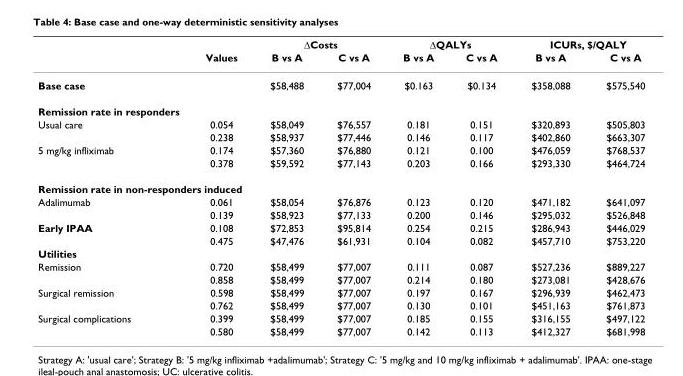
<table><thead><tr><td rowspan="2"></td><td rowspan="2">Values</td><td colspan="2">ΔCosts</td><td colspan="2">ΔQALYs</td><td colspan="2">ICURs, $/QALY</td></tr><tr><td>B vs A</td><td>C vs A</td><td>B vs A</td><td>C vs A</td><td>B vs A</td><td>C vs A</td></tr></thead><tbody><tr><td>Base case</td><td></td><td>$58,488</td><td>$77,004</td><td>$0.163</td><td>$0.134</td><td>$358,088</td><td>$575,540</td></tr><tr><td colspan="8">Remission rate in responders</td></tr><tr><td rowspan="2">Usual care</td><td>0.054</td><td>$58,049</td><td>$76,557</td><td>0.181</td><td>0.151</td><td>$320,893</td><td>$505,803</td></tr><tr><td>0.238</td><td>$58,937</td><td>$77,446</td><td>0.146</td><td>0.117</td><td>$402,860</td><td>$663,307</td></tr><tr><td rowspan="2">5 mg/kg infliximab</td><td>0.174</td><td>$57,360</td><td>$76,880</td><td>0.121</td><td>0.100</td><td>$476,059</td><td>$768,537</td></tr><tr><td>0.378</td><td>$59,592</td><td>$77,143</td><td>0.203</td><td>0.166</td><td>$293,330</td><td>$464,724</td></tr><tr><td colspan="8">Remission rate in non-responders induced</td></tr><tr><td rowspan="2">Adalimumab</td><td>0.061</td><td>$58,054</td><td>$76,876</td><td>0.123</td><td>0.120</td><td>$471,182</td><td>$641,097</td></tr><tr><td>0.139</td><td>$58,923</td><td>$77,133</td><td>0.200</td><td>0.146</td><td>$295,032</td><td>$526,848</td></tr><tr><td rowspan="2">Early IPAA</td><td>0.108</td><td>$72,853</td><td>$95,814</td><td>0.254</td><td>0.215</td><td>$286,943</td><td>$446,029</td></tr><tr><td>0.475</td><td>$47,476</td><td>$61,931</td><td>0.104</td><td>0.082</td><td>$457,710</td><td>$753,220</td></tr><tr><td colspan="8">Utilities</td></tr><tr><td rowspan="2">Remission</td><td>0.720</td><td>$58,499</td><td>$77,007</td><td>0.111</td><td>0.087</td><td>$527,236</td><td>$889,227</td></tr><tr><td>0.858</td><td>$58,499</td><td>$77,007</td><td>0.214</td><td>0.180</td><td>$273,081</td><td>$428,676</td></tr><tr><td rowspan="2">Surgical remission</td><td>0.598</td><td>$58,499</td><td>$77,007</td><td>0.197</td><td>0.167</td><td>$296,939</td><td>$462,473</td></tr><tr><td>0.762</td><td>$58,499</td><td>$77,007</td><td>0.130</td><td>0.101</td><td>$451,163</td><td>$761,873</td></tr><tr><td rowspan="2">Surgical complications</td><td>0.399</td><td>$58,499</td><td>$77,007</td><td>0.185</td><td>0.155</td><td>$316,155</td><td>$497,122</td></tr><tr><td>0.580</td><td>$58,499</td><td>$77,007</td><td>0.142</td><td>0.113</td><td>$412,327</td><td>$681,998</td></tr></tbody></table>